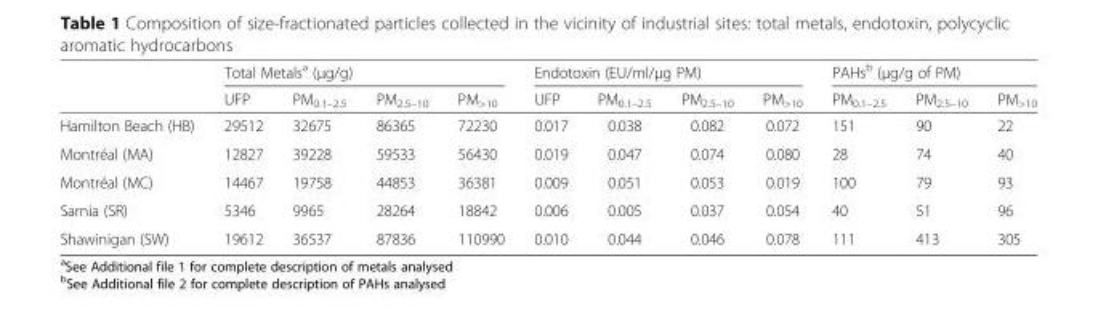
<table><thead><tr><td rowspan="2"></td><td colspan="4">Total Metals<sup>a</sup> (μg/g)</td><td colspan="4">Endotoxin (EU/ml/μg PM)</td><td colspan="3">PAHs<sup>b</sup> (μg/g of PM)</td></tr><tr><td>UFP</td><td>PM<sub>0.1–2.5</sub></td><td>PM<sub>2.5–10</sub></td><td>PM<sub>&gt;10</sub></td><td>UFP</td><td>PM<sub>0.1–2.5</sub></td><td>PM<sub>2.5–10</sub></td><td>PM<sub>&gt;10</sub></td><td>PM<sub>0.1–2.5</sub></td><td>PM<sub>2.5–10</sub></td><td>PM<sub>&gt;10</sub></td></tr></thead><tbody><tr><td>Hamilton Beach (HB)</td><td>29512</td><td>32675</td><td>86365</td><td>72230</td><td>0.017</td><td>0.038</td><td>0.082</td><td>0.072</td><td>151</td><td>90</td><td>22</td></tr><tr><td>Montréal (MA)</td><td>12827</td><td>39228</td><td>59533</td><td>56430</td><td>0.019</td><td>0.047</td><td>0.074</td><td>0.080</td><td>28</td><td>74</td><td>40</td></tr><tr><td>Montréal (MC)</td><td>14467</td><td>19758</td><td>44853</td><td>36381</td><td>0.009</td><td>0.051</td><td>0.053</td><td>0.019</td><td>100</td><td>79</td><td>93</td></tr><tr><td>Sarnia (SR)</td><td>5346</td><td>9965</td><td>28264</td><td>18842</td><td>0.006</td><td>0.005</td><td>0.037</td><td>0.054</td><td>40</td><td>51</td><td>96</td></tr><tr><td>Shawinigan (SW)</td><td>19612</td><td>36537</td><td>87836</td><td>110990</td><td>0.010</td><td>0.044</td><td>0.046</td><td>0.078</td><td>111</td><td>413</td><td>305</td></tr></tbody></table>